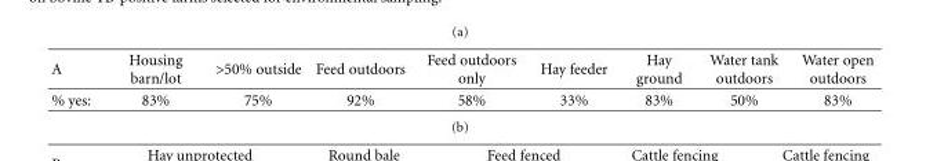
<table><thead><tr><td>A</td><td>Housing barn/lot</td><td>&gt;50% outside</td><td>Feed outdoors</td><td>Feed outdoors only</td><td>Hay feeder</td><td>Hay ground</td><td>Water tank outdoors</td><td>Water open outdoors</td></tr></thead><tbody><tr><td>% yes:</td><td>83%</td><td>75%</td><td>92%</td><td>58%</td><td>33%</td><td>83%</td><td>50%</td><td>83%</td></tr></tbody></table>